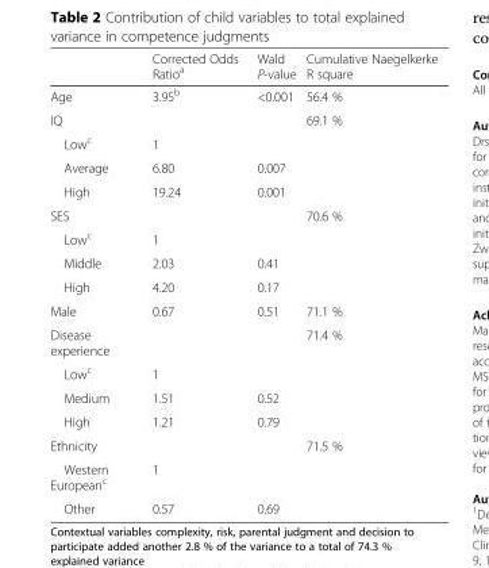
<table><thead><tr><td></td><td>Corrected Odds Ratio<sup>a</sup></td><td>Wald P-value</td><td>Cumulative Naegelkerke R square</td></tr></thead><tbody><tr><td>Age</td><td>3.95<sup>b</sup></td><td>&lt;0.001</td><td>56.4 %</td></tr><tr><td>IQ</td><td></td><td></td><td>69.1 %</td></tr><tr><td>Low<sup>c</sup></td><td>1</td><td></td><td></td></tr><tr><td>Average</td><td>6.80</td><td>0.007</td><td></td></tr><tr><td>High</td><td>19.24</td><td>0.001</td><td></td></tr><tr><td>SES</td><td></td><td></td><td>70.6 %</td></tr><tr><td>Low<sup>c</sup></td><td>1</td><td></td><td></td></tr><tr><td>Middle</td><td>2.03</td><td>0.41</td><td></td></tr><tr><td>High</td><td>4.20</td><td>0.17</td><td></td></tr><tr><td>Male</td><td>0.67</td><td>0.51</td><td>71.1 %</td></tr><tr><td>Disease experience</td><td></td><td></td><td>71.4 %</td></tr><tr><td>Low<sup>c</sup></td><td>1</td><td></td><td></td></tr><tr><td>Medium</td><td>1.51</td><td>0.52</td><td></td></tr><tr><td>High</td><td>1.21</td><td>0.79</td><td></td></tr><tr><td>Ethnicity</td><td></td><td></td><td>71.5 %</td></tr><tr><td>Western European<sup>c</sup></td><td>1</td><td></td><td></td></tr><tr><td>Other</td><td>0.57</td><td>0.69</td><td></td></tr></tbody></table>